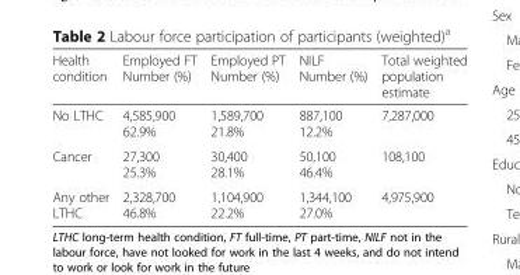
<table><thead><tr><td>Health condition</td><td>Employed FT Number (%)</td><td>Employed PT Number (%)</td><td>NILF Number (%)</td><td>Total weighted population estimate</td></tr></thead><tbody><tr><td>No LTHC</td><td>4,585,900 62.9%</td><td>1,589,700 21.8%</td><td>887,100 12.2%</td><td>7,287,000</td></tr><tr><td>Cancer</td><td>27,300 25.3%</td><td>30,400 28.1%</td><td>50,100 46.4%</td><td>108,100</td></tr><tr><td>Any other LTHC</td><td>2,328,700 46.8%</td><td>1,104,900 22.2%</td><td>1,344,100 27.0%</td><td>4,975,900</td></tr></tbody></table>